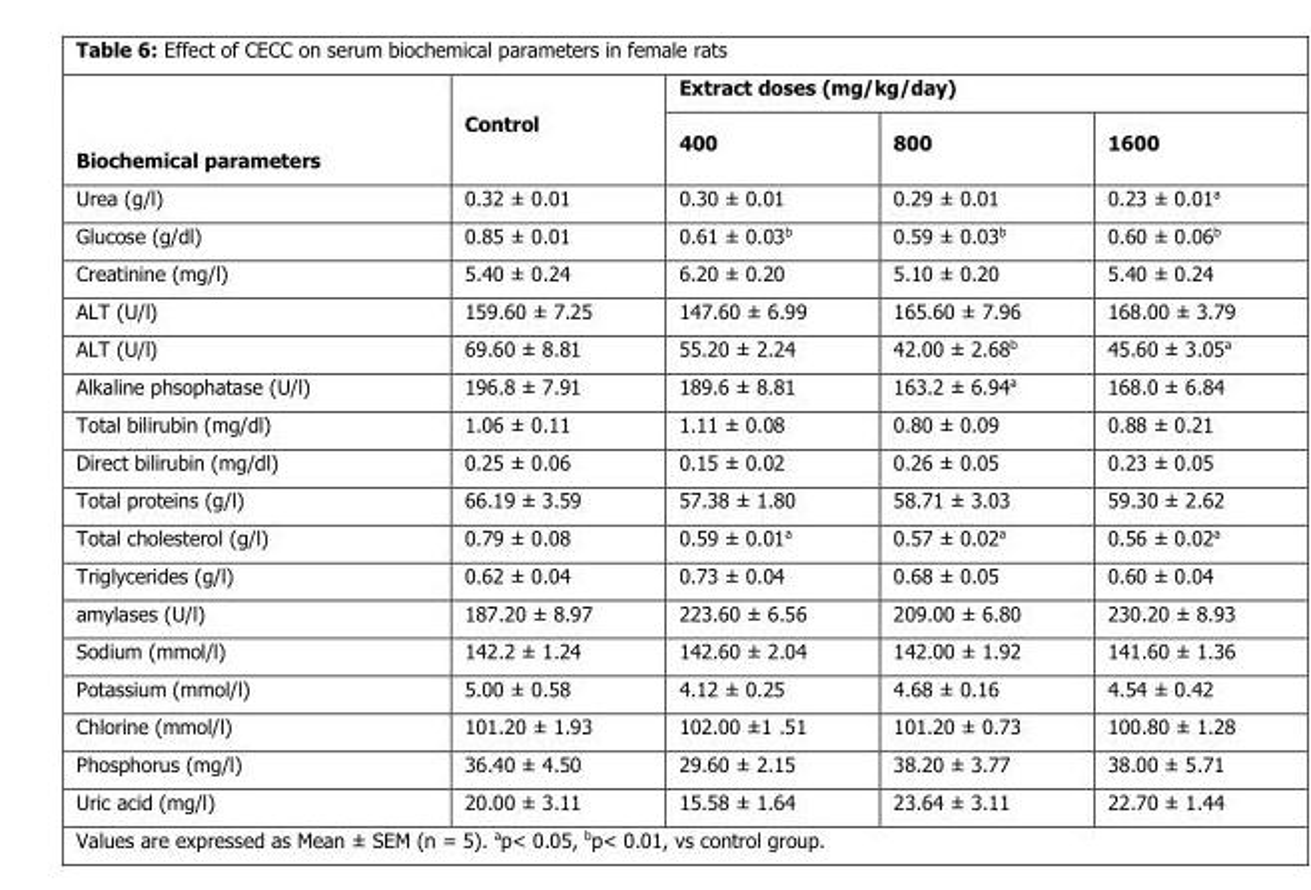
<table><thead><tr><td rowspan="2">Biochemical parameters</td><td rowspan="2">Control</td><td colspan="3">Extract doses (mg/kg/day)</td></tr><tr><td>400</td><td>800</td><td>1600</td></tr></thead><tbody><tr><td>Urea (g/l)</td><td>0.32 ± 0.01</td><td>0.30 ± 0.01</td><td>0.29 ± 0.01</td><td>0.23 ± 0.01<sup>a</sup></td></tr><tr><td>Glucose (g/dl)</td><td>0.85 ± 0.01</td><td>0.61 ± 0.03<sup>b</sup></td><td>0.59 ± 0.03<sup>b</sup></td><td>0.60 ± 0.06<sup>b</sup></td></tr><tr><td>Creatinine (mg/l)</td><td>5.40 ± 0.24</td><td>6.20 ± 0.20</td><td>5.10 ± 0.20</td><td>5.40 ± 0.24</td></tr><tr><td>ALT (U/l)</td><td>159.60 ± 7.25</td><td>147.60 ± 6.99</td><td>165.60 ± 7.96</td><td>168.00 ± 3.79</td></tr><tr><td>ALT (U/l)</td><td>69.60 ± 8.81</td><td>55.20 ± 2.24</td><td>42.00 ± 2.68<sup>b</sup></td><td>45.60 ± 3.05<sup>a</sup></td></tr><tr><td>Alkaline phsophatase (U/l)</td><td>196.8 ± 7.91</td><td>189.6 ± 8.81</td><td>163.2 ± 6.94<sup>a</sup></td><td>168.0 ± 6.84</td></tr><tr><td>Total bilirubin (mg/dl)</td><td>1.06 ± 0.11</td><td>1.11 ± 0.08</td><td>0.80 ± 0.09</td><td>0.88 ± 0.21</td></tr><tr><td>Direct bilirubin (mg/dl)</td><td>0.25 ± 0.06</td><td>0.15 ± 0.02</td><td>0.26 ± 0.05</td><td>0.23 ± 0.05</td></tr><tr><td>Total proteins (g/l)</td><td>66.19 ± 3.59</td><td>57.38 ± 1.80</td><td>58.71 ± 3.03</td><td>59.30 ± 2.62</td></tr><tr><td>Total cholesterol (g/l)</td><td>0.79 ± 0.08</td><td>0.59 ± 0.01<sup>a</sup></td><td>0.57 ± 0.02<sup>a</sup></td><td>0.56 ± 0.02<sup>a</sup></td></tr><tr><td>Triglycerides (g/l)</td><td>0.62 ± 0.04</td><td>0.73 ± 0.04</td><td>0.68 ± 0.05</td><td>0.60 ± 0.04</td></tr><tr><td>amylases (U/l)</td><td>187.20 ± 8.97</td><td>223.60 ± 6.56</td><td>209.00 ± 6.80</td><td>230.20 ± 8.93</td></tr><tr><td>Sodium (mmol/l)</td><td>142.2 ± 1.24</td><td>142.60 ± 2.04</td><td>142.00 ± 1.92</td><td>141.60 ± 1.36</td></tr><tr><td>Potassium (mmol/l)</td><td>5.00 ± 0.58</td><td>4.12 ± 0.25</td><td>4.68 ± 0.16</td><td>4.54 ± 0.42</td></tr><tr><td>Chlorine (mmol/l)</td><td>101.20 ± 1.93</td><td>102.00 ±1 .51</td><td>101.20 ± 0.73</td><td>100.80 ± 1.28</td></tr><tr><td>Phosphorus (mg/l)</td><td>36.40 ± 4.50</td><td>29.60 ± 2.15</td><td>38.20 ± 3.77</td><td>38.00 ± 5.71</td></tr><tr><td>Uric acid (mg/l)</td><td>20.00 ± 3.11</td><td>15.58 ± 1.64</td><td>23.64 ± 3.11</td><td>22.70 ± 1.44</td></tr></tbody></table>